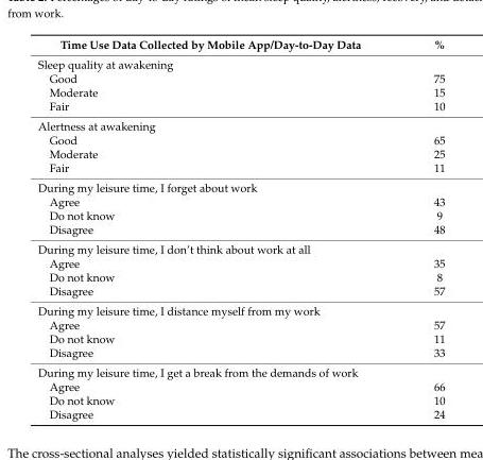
<table><thead><tr><td>Time Use Data Collected by Mobile App/Day-to-Day Data</td><td>%</td></tr></thead><tbody><tr><td colspan="2">Sleep quality at awakening</td></tr><tr><td>Good</td><td>75</td></tr><tr><td>Moderate</td><td>15</td></tr><tr><td>Fair</td><td>10</td></tr><tr><td colspan="2">Alertness at awakening</td></tr><tr><td>Good</td><td>65</td></tr><tr><td>Moderate</td><td>25</td></tr><tr><td>Fair</td><td>11</td></tr><tr><td colspan="2">During my leisure time, I forget about work</td></tr><tr><td>Agree</td><td>43</td></tr><tr><td>Do not know</td><td>9</td></tr><tr><td>Disagree</td><td>48</td></tr><tr><td colspan="2">During my leisure time, I don’t think about work at all</td></tr><tr><td>Agree</td><td>35</td></tr><tr><td>Do not know</td><td>8</td></tr><tr><td>Disagree</td><td>57</td></tr><tr><td colspan="2">During my leisure time, I distance myself from my work</td></tr><tr><td>Agree</td><td>57</td></tr><tr><td>Do not know</td><td>11</td></tr><tr><td>Disagree</td><td>33</td></tr><tr><td colspan="2">During my leisure time, I get a break from the demands of work</td></tr><tr><td>Agree</td><td>66</td></tr><tr><td>Do not know</td><td>10</td></tr><tr><td>Disagree</td><td>24</td></tr></tbody></table>